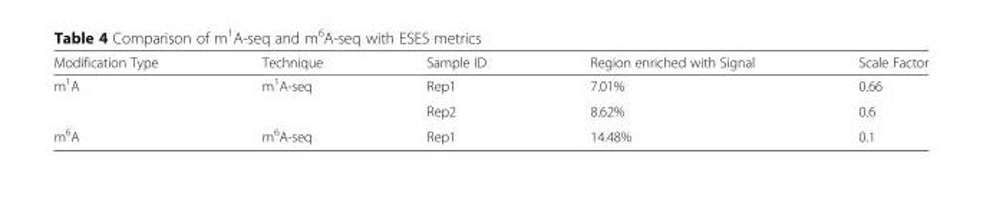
<table><thead><tr><td>Modification Type</td><td>Technique</td><td>Sample ID</td><td>Region enriched with Signal</td><td>Scale Factor</td></tr></thead><tbody><tr><td rowspan="2">m<sup>1</sup>A</td><td rowspan="2">m<sup>1</sup>A-seq</td><td>Rep1</td><td>7.01%</td><td>0.66</td></tr><tr><td>Rep2</td><td>8.62%</td><td>0.6</td></tr><tr><td>m<sup>6</sup>A</td><td>m<sup>6</sup>A-seq</td><td>Rep1</td><td>14.48%</td><td>0.1</td></tr></tbody></table>